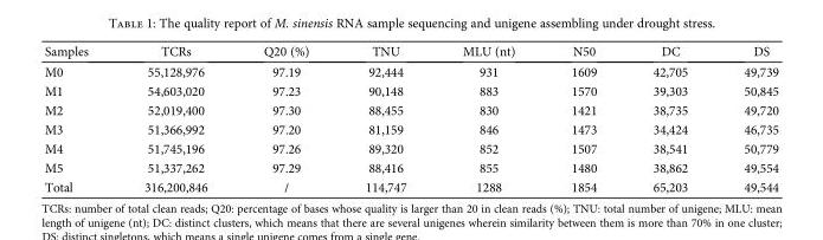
<table><thead><tr><td>Samples</td><td>TCRs</td><td>Q20 (%)</td><td>TNU</td><td>MLU (nt)</td><td>N50</td><td>DC</td><td>DS</td></tr></thead><tbody><tr><td>M0</td><td>55,128,976</td><td>97.19</td><td>92,444</td><td>931</td><td>1609</td><td>42,705</td><td>49,739</td></tr><tr><td>M1</td><td>54,603,020</td><td>97.23</td><td>90,148</td><td>883</td><td>1570</td><td>39,303</td><td>50,845</td></tr><tr><td>M2</td><td>52,019,400</td><td>97.30</td><td>88,455</td><td>830</td><td>1421</td><td>38,735</td><td>49,720</td></tr><tr><td>M3</td><td>51,366,992</td><td>97.20</td><td>81,159</td><td>846</td><td>1473</td><td>34,424</td><td>46,735</td></tr><tr><td>M4</td><td>51,745,196</td><td>97.26</td><td>89,320</td><td>852</td><td>1507</td><td>38,541</td><td>50,779</td></tr><tr><td>M5</td><td>51,337,262</td><td>97.29</td><td>88,416</td><td>855</td><td>1480</td><td>38,862</td><td>49,554</td></tr><tr><td>Total</td><td>316,200,846</td><td>/</td><td>114,747</td><td>1288</td><td>1854</td><td>65,203</td><td>49,544</td></tr></tbody></table>